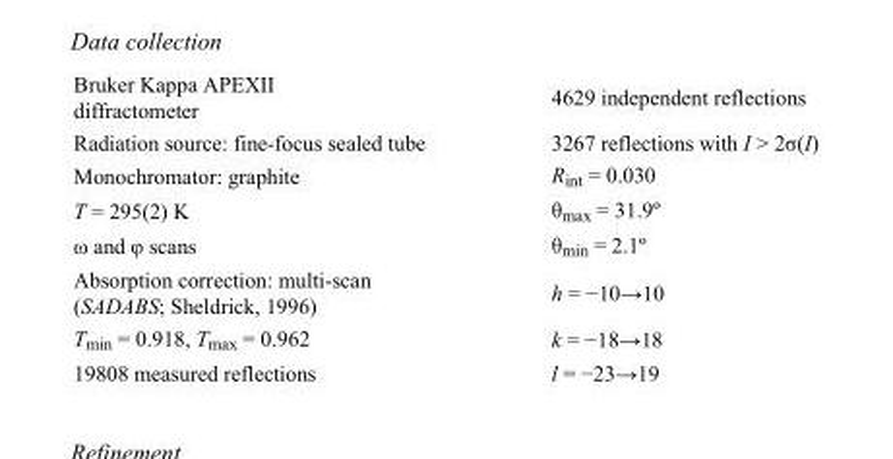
<table><tbody><tr><td>Bruker Kappa APEXII diffractometer</td><td>4629 independent reflections</td></tr><tr><td>Radiation source: fine-focus sealed tube</td><td>3267 reflections with I &gt; 2σ(I)</td></tr><tr><td>Monochromator: graphite</td><td>R<sub>int</sub> = 0.030</td></tr><tr><td>T = 295(2) K</td><td>θ<sub>max</sub> = 31.9º</td></tr><tr><td>ω and φ scans</td><td>θ<sub>min</sub> = 2.1º</td></tr><tr><td>Absorption correction: multi-scan (SADABS; Sheldrick, 1996)</td><td>h = −10→10</td></tr><tr><td>T<sub>min</sub> = 0.918, T<sub>max</sub> = 0.962</td><td>k = −18→18</td></tr><tr><td>19808 measured reflections</td><td>l = −23→19</td></tr></tbody></table>